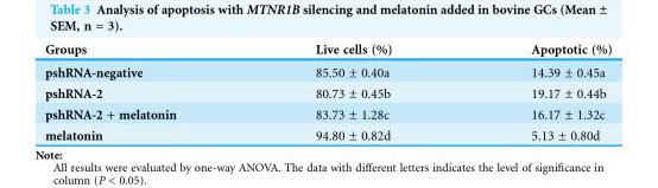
<table><thead><tr><td>Groups</td><td>Live cells (%)</td><td>Apoptotic (%)</td></tr></thead><tbody><tr><td>pshRNA-negative</td><td>85.50 ± 0.40a</td><td>14.39 ± 0.45a</td></tr><tr><td>pshRNA-2</td><td>80.73 ± 0.45b</td><td>19.17 ± 0.44b</td></tr><tr><td>pshRNA-2 + melatonin</td><td>83.73 ± 1.28c</td><td>16.17 ± 1.32c</td></tr><tr><td>melatonin</td><td>94.80 ± 0.82d</td><td>5.13 ± 0.80d</td></tr></tbody></table>